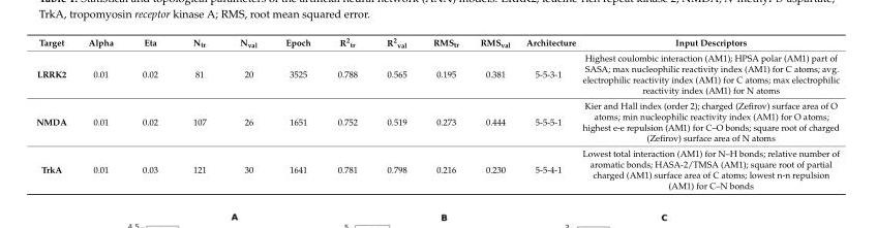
<table><thead><tr><td>Target</td><td>Alpha</td><td>Eta</td><td>N<sub>tr</sub></td><td>N<sub>val</sub></td><td>Epoch</td><td>R<sup>2</sup><sub>tr</sub></td><td>R<sup>2</sup><sub>val</sub></td><td>RMS<sub>tr</sub></td><td>RMS<sub>val</sub></td><td>Architecture</td><td>Input Descriptors</td></tr></thead><tbody><tr><td>LRRK2</td><td>0.01</td><td>0.02</td><td>81</td><td>20</td><td>3525</td><td>0.788</td><td>0.565</td><td>0.195</td><td>0.381</td><td>5-5-3-1</td><td>Highest coulombic interaction (AM1); HPSA polar (AM1) part of SASA; max nucleophilic reactivity index (AM1) for C atoms; avg. electrophilic reactivity index (AM1) for C atoms; max electrophilic reactivity index (AM1) for N atoms</td></tr><tr><td>NMDA</td><td>0.01</td><td>0.02</td><td>107</td><td>26</td><td>1651</td><td>0.752</td><td>0.519</td><td>0.273</td><td>0.444</td><td>5-5-5-1</td><td>Kier and Hall index (order 2); charged (Zefirov) surface area of O atoms; min nucleophilic reactivity index (AM1) for O atoms; highest e-e repulsion (AM1) for C–O bonds; square root of charged (Zefirov) surface area of N atoms</td></tr><tr><td>TrkA</td><td>0.01</td><td>0.03</td><td>121</td><td>30</td><td>1641</td><td>0.781</td><td>0.798</td><td>0.216</td><td>0.230</td><td>5-5-4-1</td><td>Lowest total interaction (AM1) for N–H bonds; relative number of aromatic bonds; HASA-2/TMSA (AM1); square root of partial charged (AM1) surface area of C atoms; lowest n-n repulsion (AM1) for C–N bonds</td></tr></tbody></table>